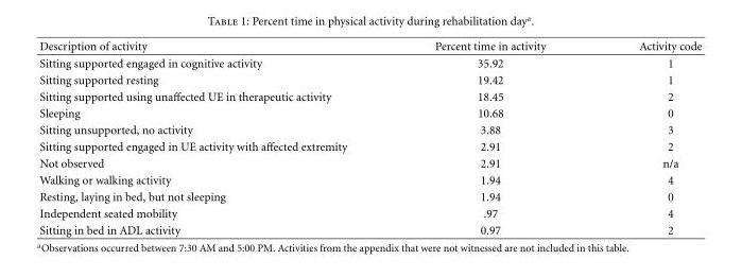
<table><thead><tr><td>Description of activity</td><td>Percent time in activity</td><td>Activity code</td></tr></thead><tbody><tr><td>Sitting supported engaged in cognitive activity</td><td>35.92</td><td>1</td></tr><tr><td>Sitting supported resting</td><td>19.42</td><td>1</td></tr><tr><td>Sitting supported using unaffected UE in therapeutic activity</td><td>18.45</td><td>2</td></tr><tr><td>Sleeping</td><td>10.68</td><td>0</td></tr><tr><td>Sitting unsupported, no activity</td><td>3.88</td><td>3</td></tr><tr><td>Sitting supported engaged in UE activity with affected extremity</td><td>2.91</td><td>2</td></tr><tr><td>Not observed</td><td>2.91</td><td>n/a</td></tr><tr><td>Walking or walking activity</td><td>1.94</td><td>4</td></tr><tr><td>Resting, laying in bed, but not sleeping</td><td>1.94</td><td>0</td></tr><tr><td>Independent seated mobility</td><td>.97</td><td>4</td></tr><tr><td>Sitting in bed in ADL activity</td><td>0.97</td><td>2</td></tr></tbody></table>